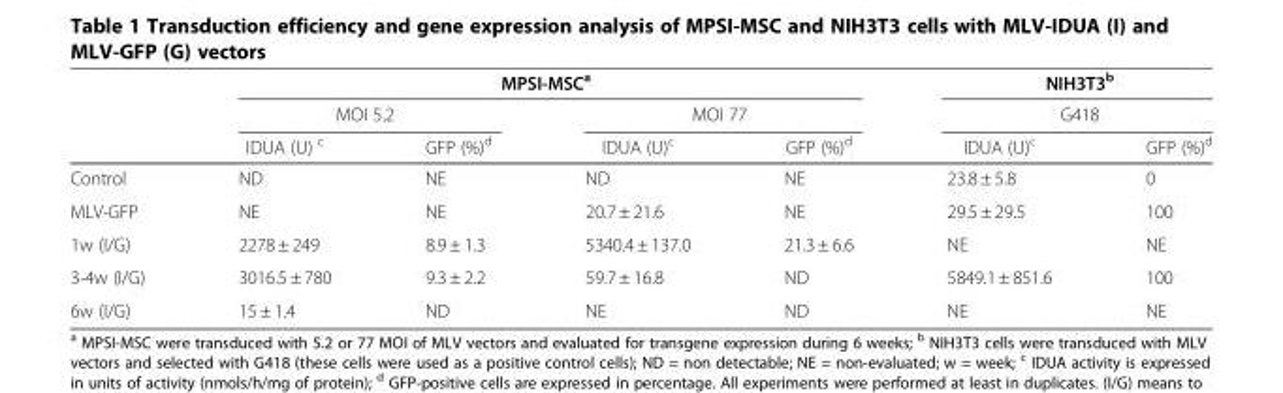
<table><thead><tr><td rowspan="3"></td><td colspan="4">MPSI-MSC<sup>a</sup></td><td rowspan="2" colspan="2">NIH3T3<sup>b</sup> G418</td></tr><tr><td colspan="2">MOI 5.2</td><td colspan="2">MOI 77</td></tr><tr><td>IDUA (U) <sup>c</sup></td><td>GFP (%)<sup>d</sup></td><td>IDUA (U)<sup>c</sup></td><td>GFP (%)<sup>d</sup></td><td>IDUA (U)<sup>c</sup></td><td>GFP (%)<sup>d</sup></td></tr></thead><tbody><tr><td>Control</td><td>ND</td><td>NE</td><td>ND</td><td>NE</td><td>23.8 ± 5.8</td><td>0</td></tr><tr><td>MLV-GFP</td><td>NE</td><td>NE</td><td>20.7 ± 21.6</td><td>NE</td><td>29.5 ± 29.5</td><td>100</td></tr><tr><td>1w (I/G)</td><td>2278 ± 249</td><td>8.9 ± 1.3</td><td>5340.4 ± 137.0</td><td>21.3 ± 6.6</td><td>NE</td><td>NE</td></tr><tr><td>3-4w (I/G)</td><td>3016.5 ± 780</td><td>9.3 ± 2.2</td><td>59.7 ± 16.8</td><td>ND</td><td>5849.1 ± 851.6</td><td>100</td></tr><tr><td>6w (I/G)</td><td>15 ± 1.4</td><td>ND</td><td>NE</td><td>ND</td><td>NE</td><td>NE</td></tr></tbody></table>